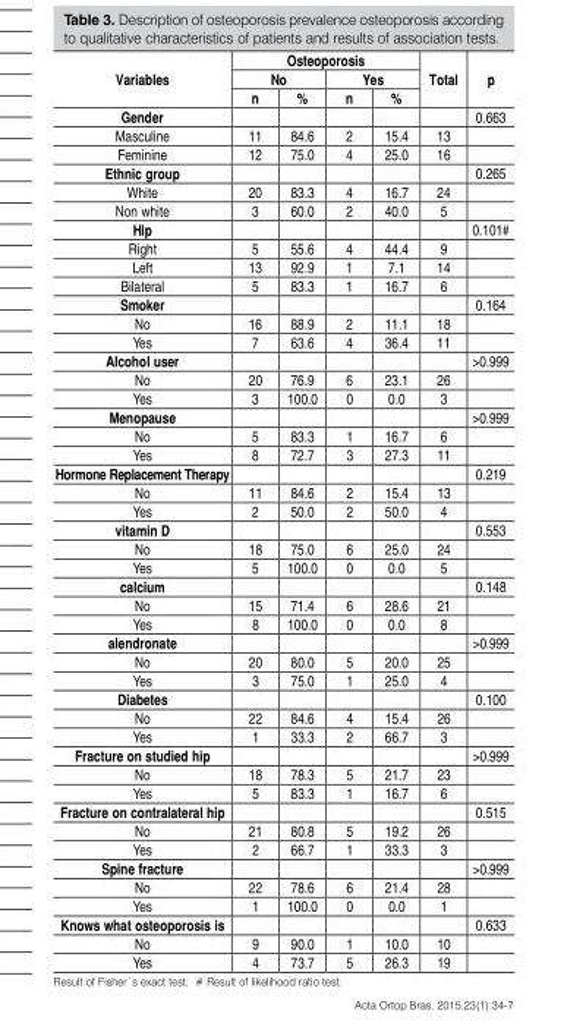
<table><thead><tr><td rowspan="3">Variables</td><td colspan="4">Osteoporosis</td><td rowspan="3">Total</td><td rowspan="3">p</td></tr><tr><td colspan="2">No</td><td colspan="2">Yes</td></tr><tr><td>n</td><td>%</td><td>n</td><td>%</td></tr></thead><tbody><tr><td>Gender</td><td></td><td></td><td></td><td></td><td></td><td>0.663</td></tr><tr><td>Masculine</td><td>11</td><td>84.6</td><td>2</td><td>15.4</td><td>13</td><td></td></tr><tr><td>Feminine</td><td>12</td><td>75.0</td><td>4</td><td>25.0</td><td>16</td><td></td></tr><tr><td>Ethnic group</td><td></td><td></td><td></td><td></td><td></td><td>0.265</td></tr><tr><td>White</td><td>20</td><td>83.3</td><td>4</td><td>16.7</td><td>24</td><td></td></tr><tr><td>Non white</td><td>3</td><td>60.0</td><td>2</td><td>40.0</td><td>5</td><td></td></tr><tr><td>Hip</td><td></td><td></td><td></td><td></td><td></td><td>0.101#</td></tr><tr><td>Right</td><td>5</td><td>55.6</td><td>4</td><td>44.4</td><td>9</td><td></td></tr><tr><td>Left</td><td>13</td><td>92.9</td><td>1</td><td>7.1</td><td>14</td><td></td></tr><tr><td>Bilateral</td><td>5</td><td>83.3</td><td>1</td><td>16.7</td><td>6</td><td></td></tr><tr><td>Smoker</td><td></td><td></td><td></td><td></td><td></td><td>0.164</td></tr><tr><td>No</td><td>16</td><td>88.9</td><td>2</td><td>11.1</td><td>18</td><td></td></tr><tr><td>Yes</td><td>7</td><td>63.6</td><td>4</td><td>36.4</td><td>11</td><td></td></tr><tr><td>Alcohol user</td><td></td><td></td><td></td><td></td><td></td><td>&gt;0.999</td></tr><tr><td>No</td><td>20</td><td>76.9</td><td>6</td><td>23.1</td><td>26</td><td></td></tr><tr><td>Yes</td><td>3</td><td>100.0</td><td>0</td><td>0.0</td><td>3</td><td></td></tr><tr><td>Menopause</td><td></td><td></td><td></td><td></td><td></td><td>&gt;0.999</td></tr><tr><td>No</td><td>5</td><td>83.3</td><td>1</td><td>16.7</td><td>6</td><td></td></tr><tr><td>Yes</td><td>8</td><td>72.7</td><td>3</td><td>27.3</td><td>11</td><td></td></tr><tr><td>Hormone Replacement Therapy</td><td></td><td></td><td></td><td></td><td></td><td>0.219</td></tr><tr><td>No</td><td>11</td><td>84.6</td><td>2</td><td>15.4</td><td>13</td><td></td></tr><tr><td>Yes</td><td>2</td><td>50.0</td><td>2</td><td>50.0</td><td>4</td><td></td></tr><tr><td>vitamin D</td><td></td><td></td><td></td><td></td><td></td><td>0.553</td></tr><tr><td>No</td><td>18</td><td>75.0</td><td>6</td><td>25.0</td><td>24</td><td></td></tr><tr><td>Yes</td><td>5</td><td>100.0</td><td>0</td><td>0.0</td><td>5</td><td></td></tr><tr><td>calcium</td><td></td><td></td><td></td><td></td><td></td><td>0.148</td></tr><tr><td>No</td><td>15</td><td>71.4</td><td>6</td><td>28.6</td><td>21</td><td></td></tr><tr><td>Yes</td><td>8</td><td>100.0</td><td>0</td><td>0.0</td><td>8</td><td></td></tr><tr><td>alendronate</td><td></td><td></td><td></td><td></td><td></td><td>&gt;0.999</td></tr><tr><td>No</td><td>20</td><td>80.0</td><td>5</td><td>20.0</td><td>25</td><td></td></tr><tr><td>Yes</td><td>3</td><td>75.0</td><td>1</td><td>25.0</td><td>4</td><td></td></tr><tr><td>Diabetes</td><td></td><td></td><td></td><td></td><td></td><td>0.100</td></tr><tr><td>No</td><td>22</td><td>84.6</td><td>4</td><td>15.4</td><td>26</td><td></td></tr><tr><td>Yes</td><td>1</td><td>33.3</td><td>2</td><td>66.7</td><td>3</td><td></td></tr><tr><td>Fracture on studied hip</td><td></td><td></td><td></td><td></td><td></td><td>&gt;0.999</td></tr><tr><td>No</td><td>18</td><td>78.3</td><td>5</td><td>21.7</td><td>23</td><td></td></tr><tr><td>Yes</td><td>5</td><td>83.3</td><td>1</td><td>16.7</td><td>6</td><td></td></tr><tr><td>Fracture on contralateral hip</td><td></td><td></td><td></td><td></td><td></td><td>0.515</td></tr><tr><td>No</td><td>21</td><td>80.8</td><td>5</td><td>19.2</td><td>26</td><td></td></tr><tr><td>Yes</td><td>2</td><td>66.7</td><td>1</td><td>33.3</td><td>3</td><td></td></tr><tr><td>Spine fracture</td><td></td><td></td><td></td><td></td><td></td><td>&gt;0.999</td></tr><tr><td>No</td><td>22</td><td>78.6</td><td>6</td><td>21.4</td><td>28</td><td></td></tr><tr><td>Yes</td><td>1</td><td>100.0</td><td>0</td><td>0.0</td><td>1</td><td></td></tr><tr><td>Knows what osteoporosis is</td><td></td><td></td><td></td><td></td><td></td><td>0.633</td></tr><tr><td>No</td><td>9</td><td>90.0</td><td>1</td><td>10.0</td><td>10</td><td></td></tr><tr><td>Yes</td><td>4</td><td>73.7</td><td>5</td><td>26.3</td><td>19</td><td></td></tr></tbody></table>